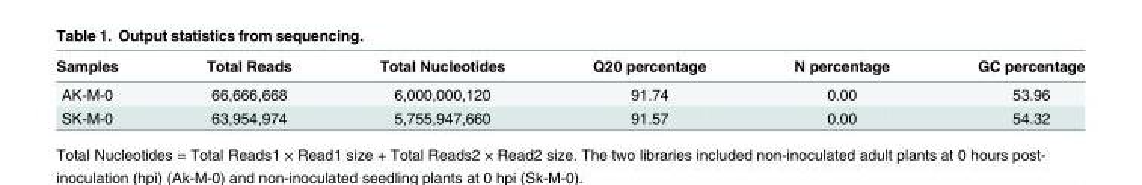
<table><thead><tr><td>Samples</td><td>Total Reads</td><td>Total Nucleotides</td><td>Q20 percentage</td><td>N percentage</td><td>GC percentage</td></tr></thead><tbody><tr><td>AK-M-0</td><td>66,666,668</td><td>6,000,000,120</td><td>91.74</td><td>0.00</td><td>53.96</td></tr><tr><td>SK-M-0</td><td>63,954,974</td><td>5,755,947,660</td><td>91.57</td><td>0.00</td><td>54.32</td></tr></tbody></table>